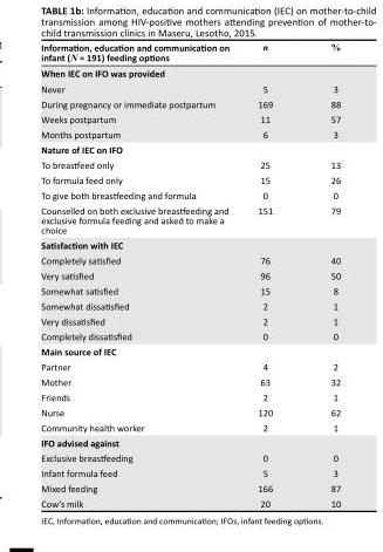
<table><thead><tr><td>Information, education and communication on infant (N = 191) feeding options</td><td>n</td><td>%</td></tr></thead><tbody><tr><td colspan="3">When IEC on IFO was provided</td></tr><tr><td>Never</td><td>5</td><td>3</td></tr><tr><td>During pregnancy or immediate postpartum</td><td>169</td><td>88</td></tr><tr><td>Weeks postpartum</td><td>11</td><td>57</td></tr><tr><td>Months postpartum</td><td>6</td><td>3</td></tr><tr><td colspan="3">Nature of IEC on IFO</td></tr><tr><td>To breastfeed only</td><td>25</td><td>13</td></tr><tr><td>To formula feed only</td><td>15</td><td>26</td></tr><tr><td>To give both breastfeeding and formula</td><td>0</td><td>0</td></tr><tr><td>Counselled on both exclusive breastfeeding and exclusive formula feeding and asked to make a choice</td><td>151</td><td>79</td></tr><tr><td colspan="3">Satisfaction with IEC</td></tr><tr><td>Completely satisfied</td><td>76</td><td>40</td></tr><tr><td>Very satisfied</td><td>96</td><td>50</td></tr><tr><td>Somewhat satisfied</td><td>15</td><td>8</td></tr><tr><td>Somewhat dissatisfied</td><td>2</td><td>1</td></tr><tr><td>Very dissatisfied</td><td>2</td><td>1</td></tr><tr><td>Completely dissatisfied</td><td>0</td><td>0</td></tr><tr><td colspan="3">Main source of IEC</td></tr><tr><td>Partner</td><td>4</td><td>2</td></tr><tr><td>Mother</td><td>63</td><td>32</td></tr><tr><td>Friends</td><td>2</td><td>1</td></tr><tr><td>Nurse</td><td>120</td><td>62</td></tr><tr><td>Community health worker</td><td>2</td><td>1</td></tr><tr><td colspan="3">IFO advised against</td></tr><tr><td>Exclusive breastfeeding</td><td>0</td><td>0</td></tr><tr><td>Infant formula feed</td><td>5</td><td>3</td></tr><tr><td>Mixed feeding</td><td>166</td><td>87</td></tr><tr><td>Cow’s milk</td><td>20</td><td>10</td></tr></tbody></table>